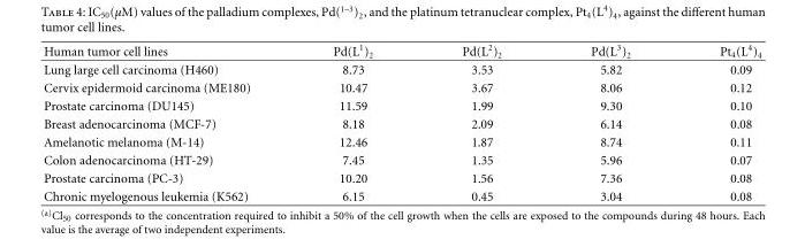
<table><thead><tr><td>Human tumor cell lines</td><td>Pd(L<sup>1</sup>)<sub>2</sub></td><td>Pd(L<sup>2</sup>)<sub>2</sub></td><td>Pd(L<sup>3</sup>)<sub>2</sub></td><td>Pt<sub>4</sub>(L<sup>4</sup>)<sub>4</sub></td></tr></thead><tbody><tr><td>Lung large cell carcinoma (H460)</td><td>8.73</td><td>3.53</td><td>5.82</td><td>0.09</td></tr><tr><td>Cervix epidermoid carcinoma (ME180)</td><td>10.47</td><td>3.67</td><td>8.06</td><td>0.12</td></tr><tr><td>Prostate carcinoma (DU145)</td><td>11.59</td><td>1.99</td><td>9.30</td><td>0.10</td></tr><tr><td>Breast adenocarcinoma (MCF-7)</td><td>8.18</td><td>2.09</td><td>6.14</td><td>0.08</td></tr><tr><td>Amelanotic melanoma (M-14)</td><td>12.46</td><td>1.87</td><td>8.74</td><td>0.11</td></tr><tr><td>Colon adenocarcinoma (HT-29)</td><td>7.45</td><td>1.35</td><td>5.96</td><td>0.07</td></tr><tr><td>Prostate carcinoma (PC-3)</td><td>10.20</td><td>1.56</td><td>7.36</td><td>0.08</td></tr><tr><td>Chronic myelogenous leukemia (K562)</td><td>6.15</td><td>0.45</td><td>3.04</td><td>0.08</td></tr></tbody></table>